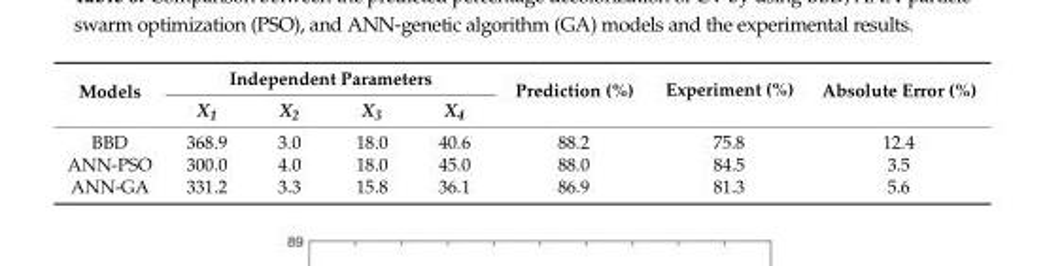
<table><thead><tr><td rowspan="2">Models</td><td colspan="4">Independent Parameters</td><td rowspan="2">Prediction (%)</td><td rowspan="2">Experiment (%)</td><td rowspan="2">Absolute Error (%)</td></tr><tr><td>X<sub>1</sub></td><td>X<sub>2</sub></td><td>X<sub>3</sub></td><td>X<sub>4</sub></td></tr></thead><tbody><tr><td>BBD</td><td>368.9</td><td>3.0</td><td>18.0</td><td>40.6</td><td>88.2</td><td>75.8</td><td>12.4</td></tr><tr><td>ANN-PSO</td><td>300.0</td><td>4.0</td><td>18.0</td><td>45.0</td><td>88.0</td><td>84.5</td><td>3.5</td></tr><tr><td>ANN-GA</td><td>331.2</td><td>3.3</td><td>15.8</td><td>36.1</td><td>86.9</td><td>81.3</td><td>5.6</td></tr></tbody></table>